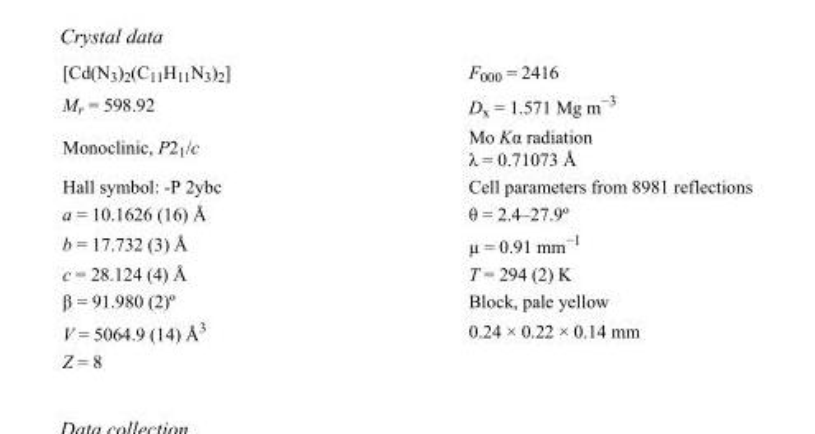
<table><tbody><tr><td>[Cd(N<sub>3</sub>)<sub>2</sub>(C<sub>11</sub>H<sub>11</sub>N<sub>3</sub>)<sub>2</sub>]</td><td>F<sub>000</sub> = 2416</td></tr><tr><td>M<sub>r</sub> = 598.92</td><td>D<sub>x</sub> = 1.571 Mg m<sup>−3</sup></td></tr><tr><td>Monoclinic, P2<sub>1</sub>/c</td><td>Mo Kα radiation λ = 0.71073 Å</td></tr><tr><td>Hall symbol: -P 2ybc</td><td>Cell parameters from 8981 reflections</td></tr><tr><td>a = 10.1626 (16) Å</td><td>θ = 2.4–27.9º</td></tr><tr><td>b = 17.732 (3) Å</td><td>µ = 0.91 mm<sup>−1</sup></td></tr><tr><td>c = 28.124 (4) Å</td><td>T = 294 (2) K</td></tr><tr><td>β = 91.980 (2)º</td><td>Block, pale yellow</td></tr><tr><td>V = 5064.9 (14) Å<sup>3</sup></td><td>0.24 × 0.22 × 0.14 mm</td></tr><tr><td>Z = 8</td><td></td></tr></tbody></table>